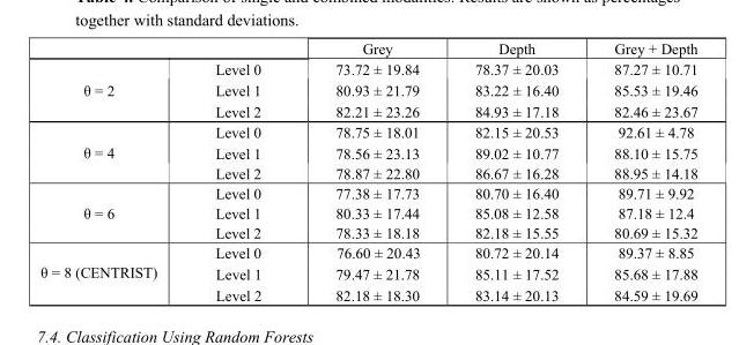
<table><thead><tr><td></td><td></td><td>Grey</td><td>Depth</td><td>Grey + Depth</td></tr></thead><tbody><tr><td rowspan="3">θ = 2</td><td>Level 0</td><td>73.72 ± 19.84</td><td>78.37 ± 20.03</td><td>87.27 ± 10.71</td></tr><tr><td>Level 1</td><td>80.93 ± 21.79</td><td>83.22 ± 16.40</td><td>85.53 ± 19.46</td></tr><tr><td>Level 2</td><td>82.21 ± 23.26</td><td>84.93 ± 17.18</td><td>82.46 ± 23.67</td></tr><tr><td rowspan="3">θ = 4</td><td>Level 0</td><td>78.75 ± 18.01</td><td>82.15 ± 20.53</td><td>92.61 ± 4.78</td></tr><tr><td>Level 1</td><td>78.56 ± 23.13</td><td>89.02 ± 10.77</td><td>88.10 ± 15.75</td></tr><tr><td>Level 2</td><td>78.87 ± 22.80</td><td>86.67 ± 16.28</td><td>88.95 ± 14.18</td></tr><tr><td rowspan="3">θ = 6</td><td>Level 0</td><td>77.38 ± 17.73</td><td>80.70 ± 16.40</td><td>89.71 ± 9.92</td></tr><tr><td>Level 1</td><td>80.33 ± 17.44</td><td>85.08 ± 12.58</td><td>87.18 ± 12.4</td></tr><tr><td>Level 2</td><td>78.33 ± 18.18</td><td>82.18 ± 15.55</td><td>80.69 ± 15.32</td></tr><tr><td rowspan="3">θ = 8 (CENTRIST)</td><td>Level 0</td><td>76.60 ± 20.43</td><td>80.72 ± 20.14</td><td>89.37 ± 8.85</td></tr><tr><td>Level 1</td><td>79.47 ± 21.78</td><td>85.11 ± 17.52</td><td>85.68 ± 17.88</td></tr><tr><td>Level 2</td><td>82.18 ± 18.30</td><td>83.14 ± 20.13</td><td>84.59 ± 19.69</td></tr></tbody></table>